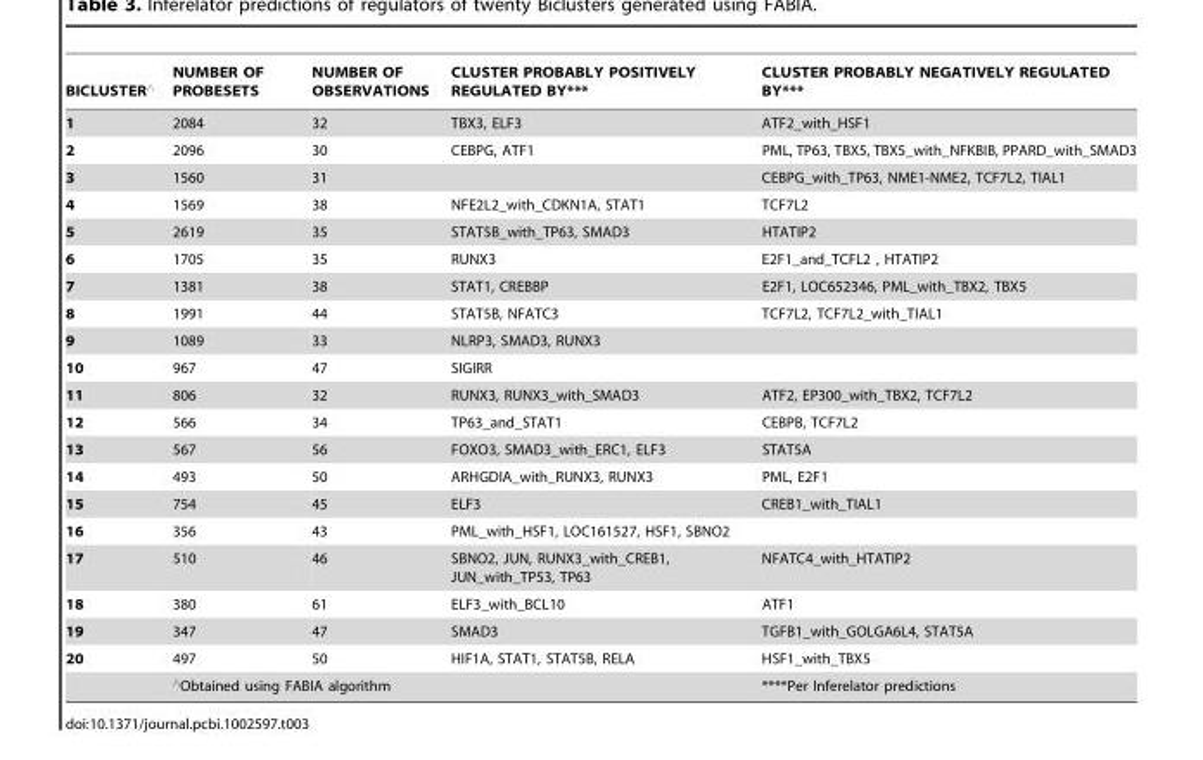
<table><thead><tr><td>BICLUSTER‘</td><td>NUMBER OF PROBESETS</td><td>NUMBER OF OBSERVATIONS</td><td>CLUSTER PROBABLY POSITIVELY REGULATED BY***</td><td>CLUSTER PROBABLY NEGATIVELY REGULATED BY***</td></tr></thead><tbody><tr><td>1</td><td>2084</td><td>32</td><td>TBX3, ELF3</td><td>ATF2_with_HSF1</td></tr><tr><td>2</td><td>2096</td><td>30</td><td>CEBPG, ATF1</td><td>PML, TP63, TBX5, TBX5_with_NFKBIB, PPARD_with_SMAD3</td></tr><tr><td>3</td><td>1560</td><td>31</td><td></td><td>CEBPG_with_TP63, NME1-NME2, TCF7L2, TIAL1</td></tr><tr><td>4</td><td>1569</td><td>38</td><td>NFE2L2_with_CDKN1A, STAT1</td><td>TCF7L2</td></tr><tr><td>5</td><td>2619</td><td>35</td><td>STAT5B_with_TP63, SMAD3</td><td>HTATIP2</td></tr><tr><td>6</td><td>1705</td><td>35</td><td>RUNX3</td><td>E2F1_and_TCFL2 , HTATIP2</td></tr><tr><td>7</td><td>1381</td><td>38</td><td>STAT1, CREBBP</td><td>E2F1, LOC652346, PML_with_TBX2, TBX5</td></tr><tr><td>8</td><td>1991</td><td>44</td><td>STAT5B, NFATC3</td><td>TCF7L2, TCF7L2_with_TIAL1</td></tr><tr><td>9</td><td>1089</td><td>33</td><td>NLRP3, SMAD3, RUNX3</td><td></td></tr><tr><td>10</td><td>967</td><td>47</td><td>SIGIRR</td><td></td></tr><tr><td>11</td><td>806</td><td>32</td><td>RUNX3, RUNX3_with_SMAD3</td><td>ATF2, EP300_with_TBX2, TCF7L2</td></tr><tr><td>12</td><td>566</td><td>34</td><td>TP63_and_STAT1</td><td>CEBPB, TCF7L2</td></tr><tr><td>13</td><td>567</td><td>56</td><td>FOXO3, SMAD3_with_ERC1, ELF3</td><td>STAT5A</td></tr><tr><td>14</td><td>493</td><td>50</td><td>ARHGDIA_with_RUNX3, RUNX3</td><td>PML, E2F1</td></tr><tr><td>15</td><td>754</td><td>45</td><td>ELF3</td><td>CREB1_with_TIAL1</td></tr><tr><td>16</td><td>356</td><td>43</td><td>PML_with_HSF1, LOC161527, HSF1, SBNO2</td><td></td></tr><tr><td>17</td><td>510</td><td>46</td><td>SBNO2, JUN, RUNX3_with_CREB1, JUN_with_TP53, TP63</td><td>NFATC4_with_HTATIP2</td></tr><tr><td>18</td><td>380</td><td>61</td><td>ELF3_with_BCL10</td><td>ATF1</td></tr><tr><td>19</td><td>347</td><td>47</td><td>SMAD3</td><td>TGFB1_with_GOLGA6L4, STAT5A</td></tr><tr><td rowspan="2">20</td><td>497</td><td>50</td><td>HIF1A, STAT1, STAT5B, RELA</td><td>HSF1_with_TBX5</td></tr><tr><td colspan="2">‘Obtained using FABIA algorithm</td><td></td><td>****Per Inferelator predictions</td></tr></tbody></table>